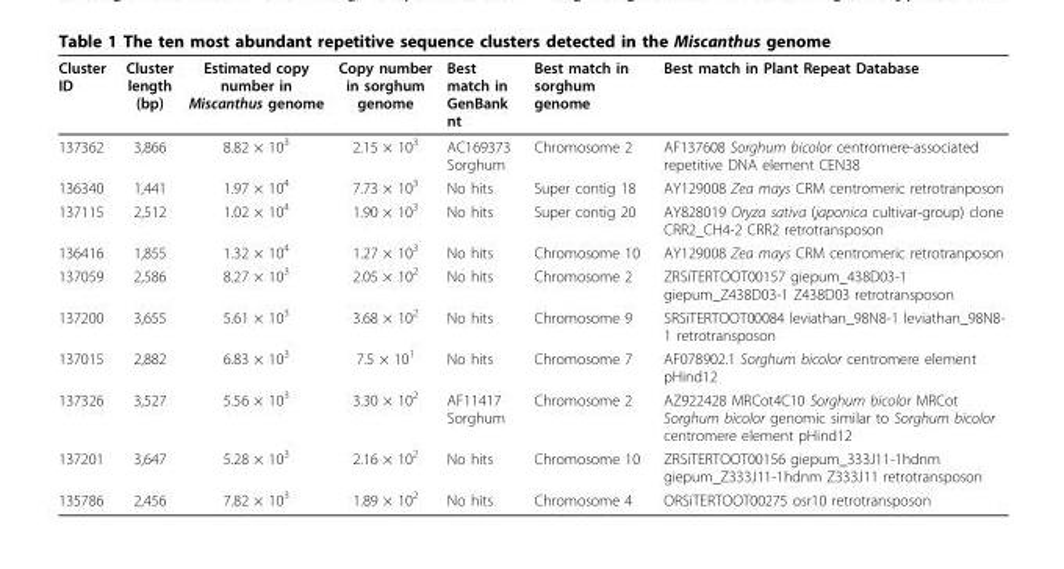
<table><thead><tr><td>Cluster ID</td><td>Cluster length (bp)</td><td>Estimated copy number in Miscanthus genome</td><td>Copy number in sorghum genome</td><td>Best match in GenBank nt</td><td>Best match in sorghum genome</td><td>Best match in Plant Repeat Database</td></tr></thead><tbody><tr><td>137362</td><td>3,866</td><td>8.82 × 10<sup>3</sup></td><td>2.15 × 10<sup>3</sup></td><td>AC169373 Sorghum</td><td>Chromosome 2</td><td>AF137608 Sorghum bicolor centromere-associated repetitive DNA element CEN38</td></tr><tr><td>136340</td><td>1,441</td><td>1.97 × 10<sup>4</sup></td><td>7.73 × 10<sup>3</sup></td><td>No hits</td><td>Super contig 18</td><td>AY129008 Zea mays CRM centromeric retrotranposon</td></tr><tr><td>137115</td><td>2,512</td><td>1.02 × 10<sup>4</sup></td><td>1.90 × 10<sup>3</sup></td><td>No hits</td><td>Super contig 20</td><td>AY828019 Oryza sativa (japonica cultivar-group) clone CRR2_CH4-2 CRR2 retrotransposon</td></tr><tr><td>136416</td><td>1,855</td><td>1.32 × 10<sup>4</sup></td><td>1.27 × 10<sup>3</sup></td><td>No hits</td><td>Chromosome 10</td><td>AY129008 Zea mays CRM centromeric retrotranposon</td></tr><tr><td>137059</td><td>2,586</td><td>8.27 × 10<sup>3</sup></td><td>2.05 × 10<sup>2</sup></td><td>No hits</td><td>Chromosome 2</td><td>ZRSiTERTOOT00157 giepum_438D03-1 giepum_Z438D03-1 Z438D03 retrotransposon</td></tr><tr><td>137200</td><td>3,655</td><td>5.61 × 10<sup>3</sup></td><td>3.68 × 10<sup>2</sup></td><td>No hits</td><td>Chromosome 9</td><td>SRSiTERTOOT00084 leviathan_98N8-1 leviathan_98N8- 1 retrotransposon</td></tr><tr><td>137015</td><td>2,882</td><td>6.83 × 10<sup>3</sup></td><td>7.5 × 10<sup>1</sup></td><td>No hits</td><td>Chromosome 7</td><td>AF078902.1 Sorghum bicolor centromere element pHind12</td></tr><tr><td>137326</td><td>3,527</td><td>5.56 × 10<sup>3</sup></td><td>3.30 × 10<sup>2</sup></td><td>AF11417 Sorghum</td><td>Chromosome 2</td><td>AZ922428 MRCot4C10 Sorghum bicolor MRCot Sorghum bicolor genomic similar to Sorghum bicolor centromere element pHind12</td></tr><tr><td>137201</td><td>3,647</td><td>5.28 × 10<sup>3</sup></td><td>2.16 × 10<sup>2</sup></td><td>No hits</td><td>Chromosome 10</td><td>ZRSiTERTOOT00156 giepum_333J11-1hdnm giepum_Z333J11-1hdnm Z333J11 retrotransposon</td></tr><tr><td>135786</td><td>2,456</td><td>7.82 × 10<sup>3</sup></td><td>1.89 × 10<sup>2</sup></td><td>No hits</td><td>Chromosome 4</td><td>ORSiTERTOOT00275 osr10 retrotransposon</td></tr></tbody></table>